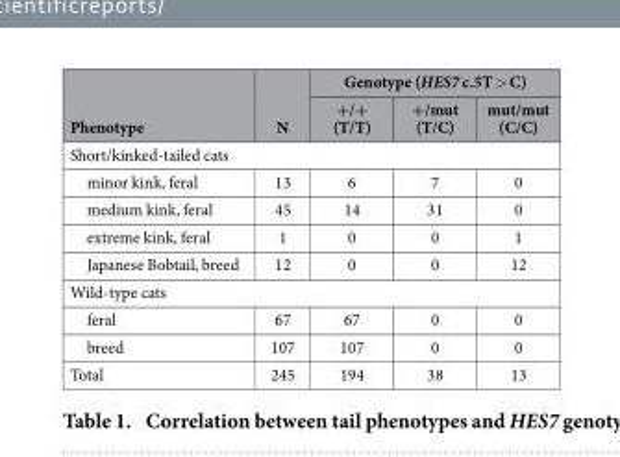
<table><thead><tr><td rowspan="2">Phenotype</td><td rowspan="2">N</td><td colspan="3">Genotype (HES7 c.5T &gt; C)</td></tr><tr><td>+/+ (T/T)</td><td>+/mut (T/C)</td><td>mut/mut (C/C)</td></tr></thead><tbody><tr><td colspan="5">Short/kinked-tailed cats</td></tr><tr><td>minor kink, feral</td><td>13</td><td>6</td><td>7</td><td>0</td></tr><tr><td>medium kink, feral</td><td>45</td><td>14</td><td>31</td><td>0</td></tr><tr><td>extreme kink, feral</td><td>1</td><td>0</td><td>0</td><td>1</td></tr><tr><td>Japanese Bobtail, breed</td><td>12</td><td>0</td><td>0</td><td>12</td></tr><tr><td colspan="5">Wild-type cats</td></tr><tr><td>feral</td><td>67</td><td>67</td><td>0</td><td>0</td></tr><tr><td>breed</td><td>107</td><td>107</td><td>0</td><td>0</td></tr><tr><td>Total</td><td>245</td><td>194</td><td>38</td><td>13</td></tr></tbody></table>